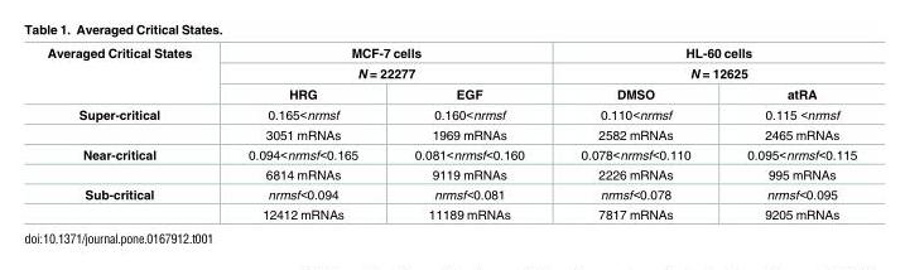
<table><thead><tr><td rowspan="3">Averaged Critical States</td><td rowspan="2" colspan="2">MCF-7 cells N = 22277</td><td rowspan="2" colspan="2">HL-60 cells N = 12625</td></tr><tr></tr><tr><td>HRG</td><td>EGF</td><td>DMSO</td><td>atRA</td></tr></thead><tbody><tr><td rowspan="2">Super-critical</td><td>0.165&lt;nrmsf</td><td>0.160&lt;nrmsf</td><td>0.110&lt;nrmsf</td><td>0.115 &lt;nrmsf</td></tr><tr><td>3051 mRNAs</td><td>1969 mRNAs</td><td>2582 mRNAs</td><td>2465 mRNAs</td></tr><tr><td rowspan="2">Near-critical</td><td>0.094&lt;nrmsf&lt;0.165</td><td>0.081&lt;nrmsf&lt;0.160</td><td>0.078&lt;nrmsf&lt;0.110</td><td>0.095&lt;nrmsf&lt;0.115</td></tr><tr><td>6814 mRNAs</td><td>9119 mRNAs</td><td>2226 mRNAs</td><td>995 mRNAs</td></tr><tr><td rowspan="2">Sub-critical</td><td>nrmsf&lt;0.094</td><td>nrmsf&lt;0.081</td><td>nrmsf&lt;0.078</td><td>nrmsf&lt;0.095</td></tr><tr><td>12412 mRNAs</td><td>11189 mRNAs</td><td>7817 mRNAs</td><td>9205 mRNAs</td></tr></tbody></table>